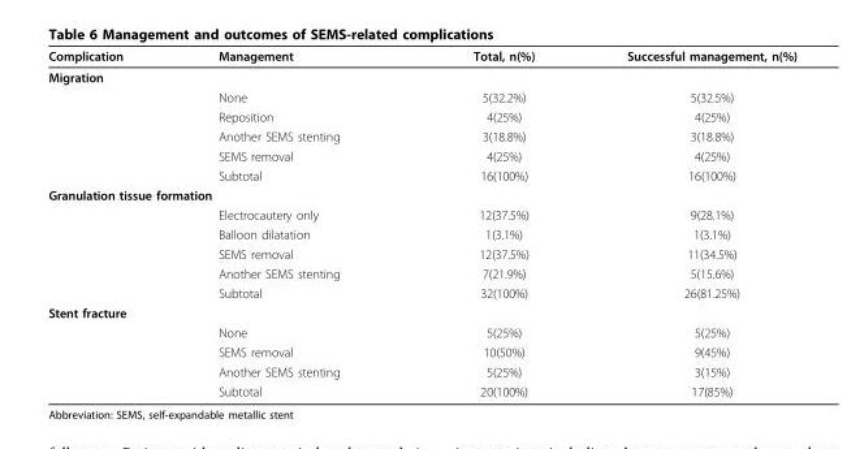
<table><thead><tr><td>Complication</td><td>Management</td><td>Total, n(%)</td><td>Successful management, n(%)</td></tr></thead><tbody><tr><td colspan="4">Migration</td></tr><tr><td></td><td>None</td><td>5(32.2%)</td><td>5(32.5%)</td></tr><tr><td></td><td>Reposition</td><td>4(25%)</td><td>4(25%)</td></tr><tr><td></td><td>Another SEMS stenting</td><td>3(18.8%)</td><td>3(18.8%)</td></tr><tr><td></td><td>SEMS removal</td><td>4(25%)</td><td>4(25%)</td></tr><tr><td></td><td>Subtotal</td><td>16(100%)</td><td>16(100%)</td></tr><tr><td colspan="4">Granulation tissue formation</td></tr><tr><td></td><td>Electrocautery only</td><td>12(37.5%)</td><td>9(28.1%)</td></tr><tr><td></td><td>Balloon dilatation</td><td>1(3.1%)</td><td>1(3.1%)</td></tr><tr><td></td><td>SEMS removal</td><td>12(37.5%)</td><td>11(34.5%)</td></tr><tr><td></td><td>Another SEMS stenting</td><td>7(21.9%)</td><td>5(15.6%)</td></tr><tr><td></td><td>Subtotal</td><td>32(100%)</td><td>26(81.25%)</td></tr><tr><td colspan="4">Stent fracture</td></tr><tr><td></td><td>None</td><td>5(25%)</td><td>5(25%)</td></tr><tr><td></td><td>SEMS removal</td><td>10(50%)</td><td>9(45%)</td></tr><tr><td></td><td>Another SEMS stenting</td><td>5(25%)</td><td>3(15%)</td></tr><tr><td></td><td>Subtotal</td><td>20(100%)</td><td>17(85%)</td></tr></tbody></table>